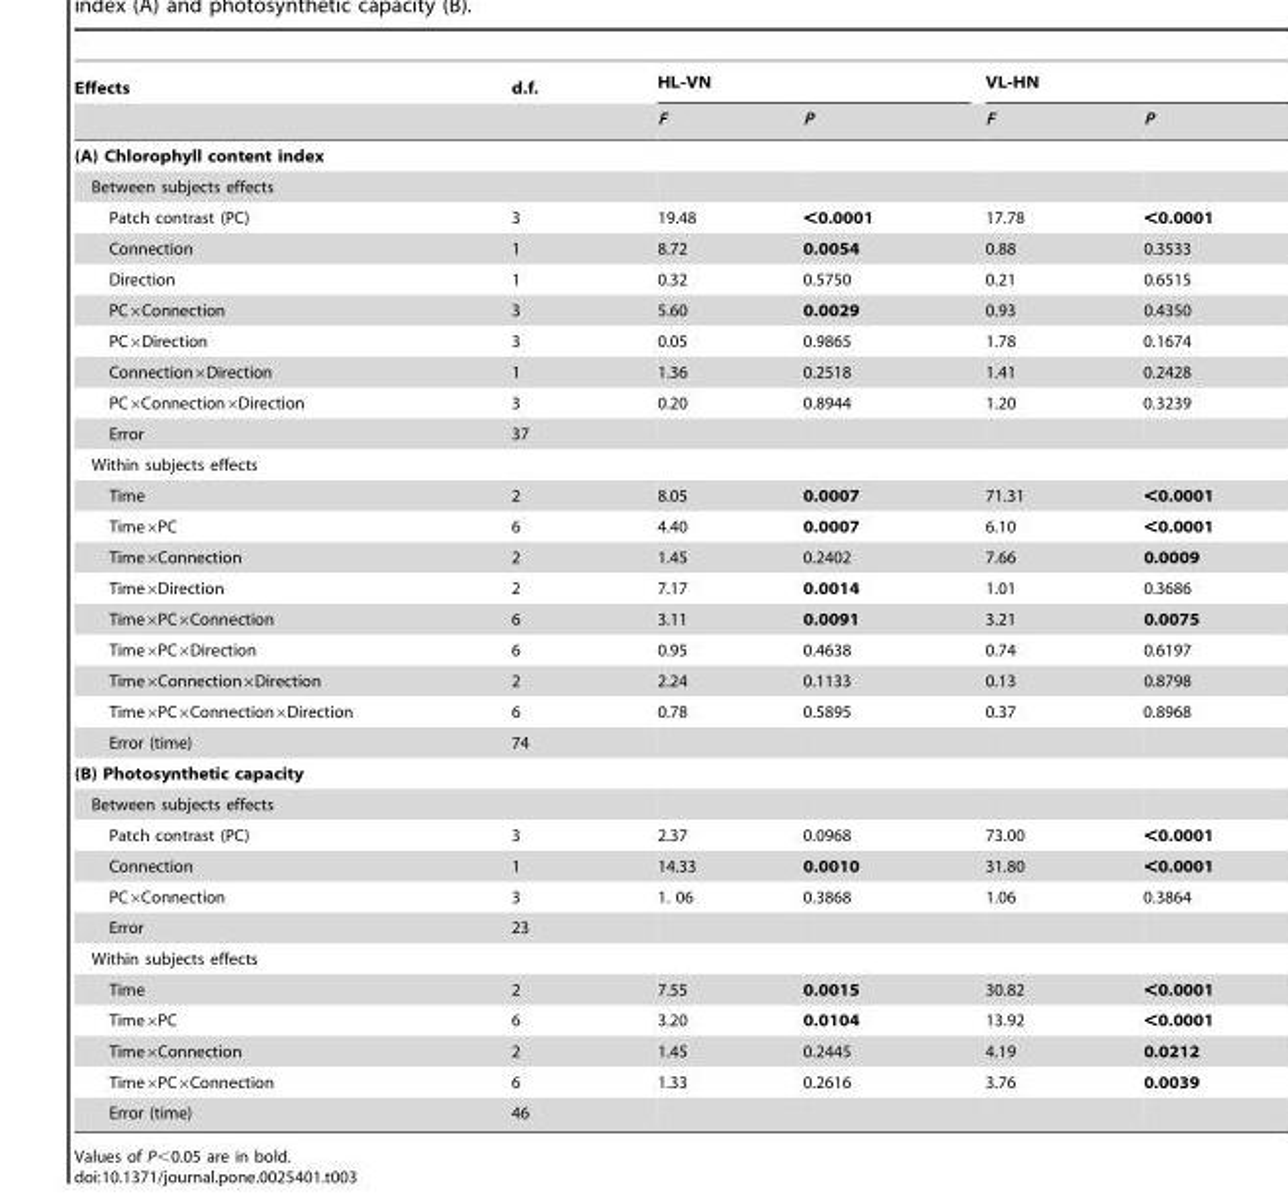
<table><thead><tr><td rowspan="2">Effects</td><td rowspan="2">d.f.</td><td colspan="2">HL-VN</td><td colspan="2">VL-HN</td></tr><tr><td>F</td><td>P</td><td>F</td><td>P</td></tr></thead><tbody><tr><td colspan="6">(A) Chlorophyll content index</td></tr><tr><td colspan="6">Between subjects effects</td></tr><tr><td>Patch contrast (PC)</td><td>3</td><td>19.48</td><td>&lt;0.0001</td><td>17.78</td><td>&lt;0.0001</td></tr><tr><td>Connection</td><td>1</td><td>8.72</td><td>0.0054</td><td>0.88</td><td>0.3533</td></tr><tr><td>Direction</td><td>1</td><td>0.32</td><td>0.5750</td><td>0.21</td><td>0.6515</td></tr><tr><td>PC×Connection</td><td>3</td><td>5.60</td><td>0.0029</td><td>0.93</td><td>0.4350</td></tr><tr><td>PC×Direction</td><td>3</td><td>0.05</td><td>0.9865</td><td>1.78</td><td>0.1674</td></tr><tr><td>Connection×Direction</td><td>1</td><td>1.36</td><td>0.2518</td><td>1.41</td><td>0.2428</td></tr><tr><td>PC×Connection×Direction</td><td>3</td><td>0.20</td><td>0.8944</td><td>1.20</td><td>0.3239</td></tr><tr><td>Error</td><td>37</td><td></td><td></td><td></td><td></td></tr><tr><td colspan="6">Within subjects effects</td></tr><tr><td>Time</td><td>2</td><td>8.05</td><td>0.0007</td><td>71.31</td><td>&lt;0.0001</td></tr><tr><td>Time×PC</td><td>6</td><td>4.40</td><td>0.0007</td><td>6.10</td><td>&lt;0.0001</td></tr><tr><td>Time×Connection</td><td>2</td><td>1.45</td><td>0.2402</td><td>7.66</td><td>0.0009</td></tr><tr><td>Time×Direction</td><td>2</td><td>7.17</td><td>0.0014</td><td>1.01</td><td>0.3686</td></tr><tr><td>Time×PC×Connection</td><td>6</td><td>3.11</td><td>0.0091</td><td>3.21</td><td>0.0075</td></tr><tr><td>Time×PC×Direction</td><td>6</td><td>0.95</td><td>0.4638</td><td>0.74</td><td>0.6197</td></tr><tr><td>Time×Connection×Direction</td><td>2</td><td>2.24</td><td>0.1133</td><td>0.13</td><td>0.8798</td></tr><tr><td>Time×PC×Connection×Direction</td><td>6</td><td>0.78</td><td>0.5895</td><td>0.37</td><td>0.8968</td></tr><tr><td>Error (time)</td><td>74</td><td></td><td></td><td></td><td></td></tr><tr><td colspan="6">(B) Photosynthetic capacity</td></tr><tr><td colspan="6">Between subjects effects</td></tr><tr><td>Patch contrast (PC)</td><td>3</td><td>2.37</td><td>0.0968</td><td>73.00</td><td>&lt;0.0001</td></tr><tr><td>Connection</td><td>1</td><td>14.33</td><td>0.0010</td><td>31.80</td><td>&lt;0.0001</td></tr><tr><td>PC×Connection</td><td>3</td><td>1. 06</td><td>0.3868</td><td>1.06</td><td>0.3864</td></tr><tr><td>Error</td><td>23</td><td></td><td></td><td></td><td></td></tr><tr><td colspan="6">Within subjects effects</td></tr><tr><td>Time</td><td>2</td><td>7.55</td><td>0.0015</td><td>30.82</td><td>&lt;0.0001</td></tr><tr><td>Time×PC</td><td>6</td><td>3.20</td><td>0.0104</td><td>13.92</td><td>&lt;0.0001</td></tr><tr><td>Time×Connection</td><td>2</td><td>1.45</td><td>0.2445</td><td>4.19</td><td>0.0212</td></tr><tr><td>Time×PC×Connection</td><td>6</td><td>1.33</td><td>0.2616</td><td>3.76</td><td>0.0039</td></tr><tr><td>Error (time)</td><td>46</td><td></td><td></td><td></td><td></td></tr></tbody></table>